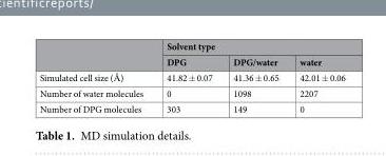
<table><thead><tr><td rowspan="2"></td><td colspan="3">Solvent type</td></tr><tr><td>DPG</td><td>DPG/water</td><td>water</td></tr></thead><tbody><tr><td>Simulated cell size (Å)</td><td>41.82 ± 0.07</td><td>41.36 ± 0.65</td><td>42.01 ± 0.06</td></tr><tr><td>Number of water molecules</td><td>0</td><td>1098</td><td>2207</td></tr><tr><td>Number of DPG molecules</td><td>303</td><td>149</td><td>0</td></tr></tbody></table>